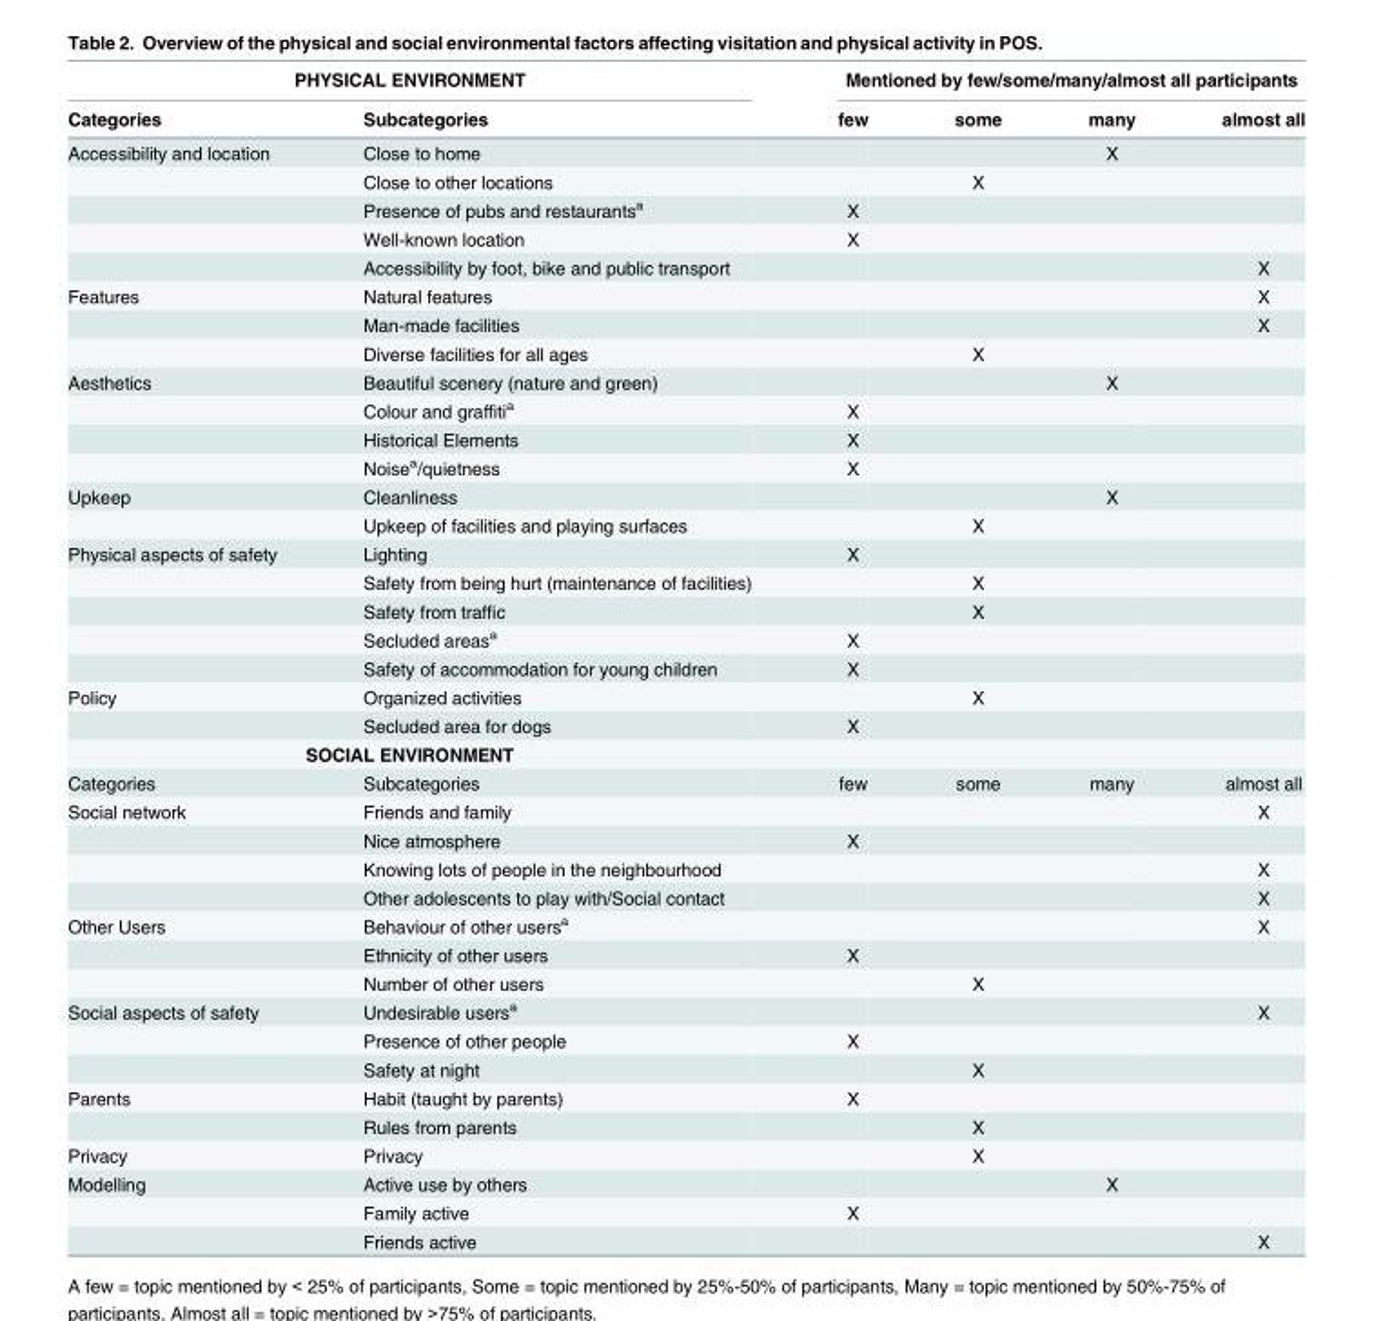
<table><thead><tr><td colspan="2">PHYSICAL ENVIRONMENT</td><td colspan="4">Mentioned by few/some/many/almost all participants</td></tr><tr><td>Categories</td><td>Subcategories</td><td>few</td><td>some</td><td>many</td><td>almost all</td></tr></thead><tbody><tr><td rowspan="5">Accessibility and location</td><td>Close to home</td><td></td><td></td><td>X</td><td></td></tr><tr><td>Close to other locations</td><td></td><td>X</td><td></td><td></td></tr><tr><td>Presence of pubs and restaurants<sup>a</sup></td><td>X</td><td></td><td></td><td></td></tr><tr><td>Well-known location</td><td>X</td><td></td><td></td><td></td></tr><tr><td>Accessibility by foot, bike and public transport</td><td></td><td></td><td></td><td>X</td></tr><tr><td rowspan="3">Features</td><td>Natural features</td><td></td><td></td><td></td><td>X</td></tr><tr><td>Man-made facilities</td><td></td><td></td><td></td><td>X</td></tr><tr><td>Diverse facilities for all ages</td><td></td><td>X</td><td></td><td></td></tr><tr><td rowspan="4">Aesthetics</td><td>Beautiful scenery (nature and green)</td><td></td><td></td><td>X</td><td></td></tr><tr><td>Colour and graffiti<sup>a</sup></td><td>X</td><td></td><td></td><td></td></tr><tr><td>Historical Elements</td><td>X</td><td></td><td></td><td></td></tr><tr><td>Noise<sup>a</sup>/quietness</td><td>X</td><td></td><td></td><td></td></tr><tr><td rowspan="2">Upkeep</td><td>Cleanliness</td><td></td><td></td><td>X</td><td></td></tr><tr><td>Upkeep of facilities and playing surfaces</td><td></td><td>X</td><td></td><td></td></tr><tr><td rowspan="5">Physical aspects of safety</td><td>Lighting</td><td>X</td><td></td><td></td><td></td></tr><tr><td>Safety from being hurt (maintenance of facilities)</td><td></td><td>X</td><td></td><td></td></tr><tr><td>Safety from traffic</td><td></td><td>X</td><td></td><td></td></tr><tr><td>Secluded areas<sup>a</sup></td><td>X</td><td></td><td></td><td></td></tr><tr><td>Safety of accommodation for young children</td><td>X</td><td></td><td></td><td></td></tr><tr><td rowspan="2">Policy</td><td>Organized activities</td><td></td><td>X</td><td></td><td></td></tr><tr><td>Secluded area for dogs</td><td>X</td><td></td><td></td><td></td></tr><tr><td colspan="6">SOCIAL ENVIRONMENT</td></tr><tr><td>Categories</td><td>Subcategories</td><td>few</td><td>some</td><td>many</td><td>almost all</td></tr><tr><td rowspan="4">Social network</td><td>Friends and family</td><td></td><td></td><td></td><td>X</td></tr><tr><td>Nice atmosphere</td><td>X</td><td></td><td></td><td></td></tr><tr><td>Knowing lots of people in the neighbourhood</td><td></td><td></td><td></td><td>X</td></tr><tr><td>Other adolescents to play with/Social contact</td><td></td><td></td><td></td><td>X</td></tr><tr><td rowspan="3">Other Users</td><td>Behaviour of other users<sup>a</sup></td><td></td><td></td><td></td><td>X</td></tr><tr><td>Ethnicity of other users</td><td>X</td><td></td><td></td><td></td></tr><tr><td>Number of other users</td><td></td><td>X</td><td></td><td></td></tr><tr><td rowspan="3">Social aspects of safety</td><td>Undesirable users<sup>a</sup></td><td></td><td></td><td></td><td>X</td></tr><tr><td>Presence of other people</td><td>X</td><td></td><td></td><td></td></tr><tr><td>Safety at night</td><td></td><td>X</td><td></td><td></td></tr><tr><td rowspan="2">Parents</td><td>Habit (taught by parents)</td><td>X</td><td></td><td></td><td></td></tr><tr><td>Rules from parents</td><td></td><td>X</td><td></td><td></td></tr><tr><td>Privacy</td><td>Privacy</td><td></td><td>X</td><td></td><td></td></tr><tr><td rowspan="3">Modelling</td><td>Active use by others</td><td></td><td></td><td>X</td><td></td></tr><tr><td>Family active</td><td>X</td><td></td><td></td><td></td></tr><tr><td>Friends active</td><td></td><td></td><td></td><td>X</td></tr></tbody></table>